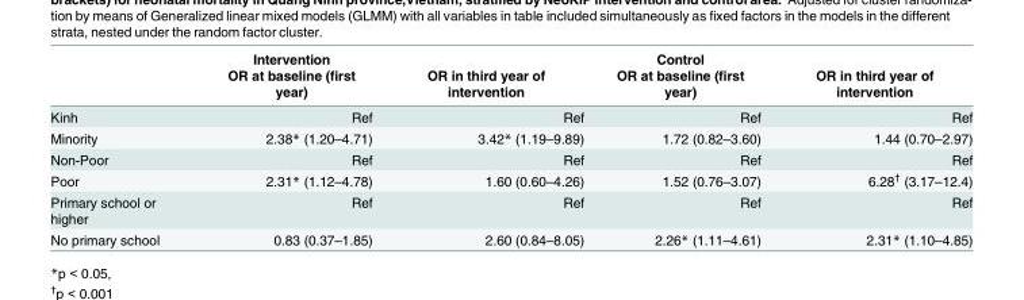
<table><thead><tr><td rowspan="2"></td><td rowspan="2">Intervention OR at baseline (first year)</td><td rowspan="2">OR in third year of intervention</td><td rowspan="2">Control OR at baseline (first year)</td><td rowspan="2">OR in third year of intervention</td></tr><tr></tr></thead><tbody><tr><td>Kinh</td><td>Ref</td><td>Ref</td><td>Ref</td><td>Ref</td></tr><tr><td>Minority</td><td>2.38* (1.20–4.71)</td><td>3.42* (1.19–9.89)</td><td>1.72 (0.82–3.60)</td><td>1.44 (0.70–2.97)</td></tr><tr><td>Non-Poor</td><td>Ref</td><td>Ref</td><td>Ref</td><td>Ref</td></tr><tr><td>Poor</td><td>2.31* (1.12–4.78)</td><td>1.60 (0.60–4.26)</td><td>1.52 (0.76–3.07)</td><td>6.28<sup>†</sup> (3.17–12.4)</td></tr><tr><td>Primary school or higher</td><td>Ref</td><td>Ref</td><td>Ref</td><td>Ref</td></tr><tr><td>No primary school</td><td>0.83 (0.37–1.85)</td><td>2.60 (0.84–8.05)</td><td>2.26* (1.11–4.61)</td><td>2.31* (1.10–4.85)</td></tr></tbody></table>